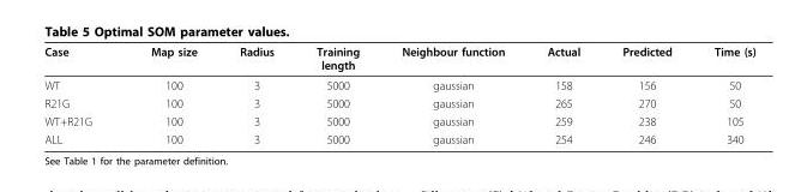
<table><thead><tr><td>Case</td><td>Map size</td><td>Radius</td><td>Training length</td><td>Neighbour function</td><td>Actual</td><td>Predicted</td><td>Time (s)</td></tr></thead><tbody><tr><td>WT</td><td>100</td><td>3</td><td>5000</td><td>gaussian</td><td>158</td><td>156</td><td>50</td></tr><tr><td>R21G</td><td>100</td><td>3</td><td>5000</td><td>gaussian</td><td>265</td><td>270</td><td>50</td></tr><tr><td>WT+R21G</td><td>100</td><td>3</td><td>5000</td><td>gaussian</td><td>259</td><td>238</td><td>105</td></tr><tr><td>ALL</td><td>100</td><td>3</td><td>5000</td><td>gaussian</td><td>254</td><td>246</td><td>340</td></tr></tbody></table>